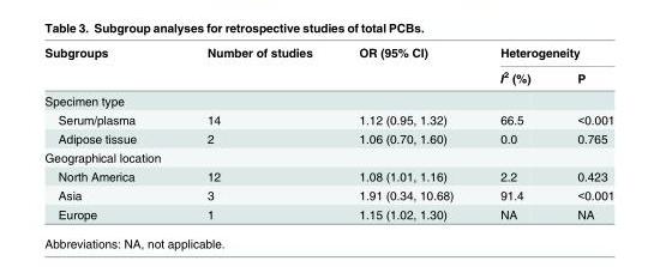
<table><thead><tr><td rowspan="2">Subgroups</td><td rowspan="2">Number of studies</td><td rowspan="2">OR (95% CI)</td><td colspan="2">Heterogeneity</td></tr><tr><td>I<sup>2</sup> (%)</td><td>P</td></tr></thead><tbody><tr><td colspan="5">Specimen type</td></tr><tr><td>Serum/plasma</td><td>14</td><td>1.12 (0.95, 1.32)</td><td>66.5</td><td>&lt;0.001</td></tr><tr><td>Adipose tissue</td><td>2</td><td>1.06 (0.70, 1.60)</td><td>0.0</td><td>0.765</td></tr><tr><td colspan="5">Geographical location</td></tr><tr><td>North America</td><td>12</td><td>1.08 (1.01, 1.16)</td><td>2.2</td><td>0.423</td></tr><tr><td>Asia</td><td>3</td><td>1.91 (0.34, 10.68)</td><td>91.4</td><td>&lt;0.001</td></tr><tr><td>Europe</td><td>1</td><td>1.15 (1.02, 1.30)</td><td>NA</td><td>NA</td></tr></tbody></table>